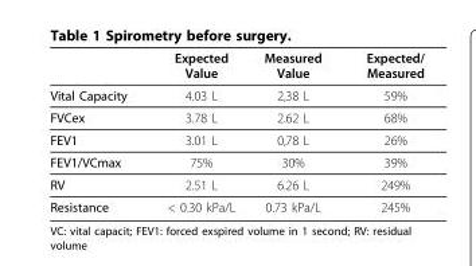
<table><thead><tr><td></td><td>Expected Value</td><td>Measured Value</td><td>Expected/ Measured</td></tr></thead><tbody><tr><td>Vital Capacity</td><td>4.03 L</td><td>2,38 L</td><td>59%</td></tr><tr><td>FVCex</td><td>3.78 L</td><td>2.62 L</td><td>68%</td></tr><tr><td>FEV1</td><td>3.01 L</td><td>0,78 L</td><td>26%</td></tr><tr><td>FEV1/VCmax</td><td>75%</td><td>30%</td><td>39%</td></tr><tr><td>RV</td><td>2.51 L</td><td>6.26 L</td><td>249%</td></tr><tr><td>Resistance</td><td>&lt; 0.30 kPa/L</td><td>0.73 kPa/L</td><td>245%</td></tr></tbody></table>